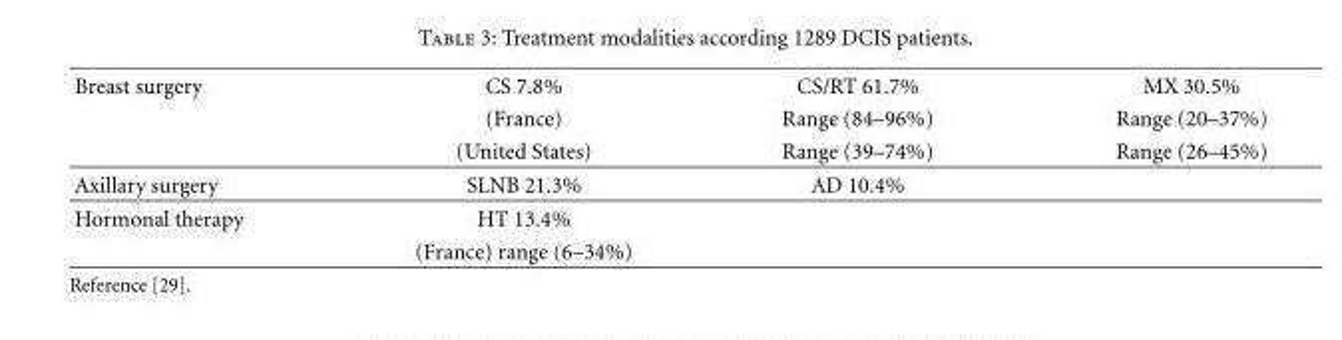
<table><tbody><tr><td rowspan="3">Breast surgery</td><td>CS 7.8%</td><td>CS/RT 61.7%</td><td>MX 30.5%</td></tr><tr><td>(France)</td><td>Range (84–96%)</td><td>Range (20–37%)</td></tr><tr><td>(United States)</td><td>Range (39–74%)</td><td>Range (26–45%)</td></tr><tr><td>Axillary surgery</td><td>SLNB 21.3%</td><td>AD 10.4%</td><td></td></tr><tr><td rowspan="2">Hormonal therapy</td><td>HT 13.4%</td><td></td><td></td></tr><tr><td>(France) range (6–34%)</td><td></td><td></td></tr></tbody></table>